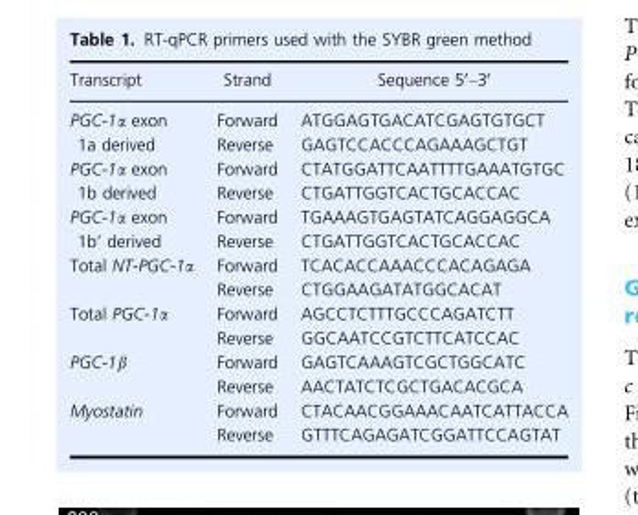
<table><thead><tr><td>Transcript</td><td>Strand</td><td>Sequence 5′–3′</td></tr></thead><tbody><tr><td rowspan="2">PGC-1α exon 1a derived</td><td>Forward</td><td>ATGGAGTGACATCGAGTGTGCT</td></tr><tr><td>Reverse</td><td>GAGTCCACCCAGAAAGCTGT</td></tr><tr><td rowspan="2">PGC-1α exon 1b derived</td><td>Forward</td><td>CTATGGATTCAATTTTGAAATGTGC</td></tr><tr><td>Reverse</td><td>CTGATTGGTCACTGCACCAC</td></tr><tr><td rowspan="2">PGC-1α exon 1b’ derived</td><td>Forward</td><td>TGAAAGTGAGTATCAGGAGGCA</td></tr><tr><td>Reverse</td><td>CTGATTGGTCACTGCACCAC</td></tr><tr><td rowspan="2">Total NT-PGC-1α</td><td>Forward</td><td>TCACACCAAACCCACAGAGA</td></tr><tr><td>Reverse</td><td>CTGGAAGATATGGCACAT</td></tr><tr><td rowspan="2">Total PGC-1α</td><td>Forward</td><td>AGCCTCTTTGCCCAGATCTT</td></tr><tr><td>Reverse</td><td>GGCAATCCGTCTTCATCCAC</td></tr><tr><td rowspan="2">PGC-1β</td><td>Forward</td><td>GAGTCAAAGTCGCTGGCATC</td></tr><tr><td>Reverse</td><td>AACTATCTCGCTGACACGCA</td></tr><tr><td rowspan="2">Myostatin</td><td>Forward</td><td>CTACAACGGAAACAATCATTACCA</td></tr><tr><td>Reverse</td><td>GTTTCAGAGATCGGATTCCAGTAT</td></tr></tbody></table>